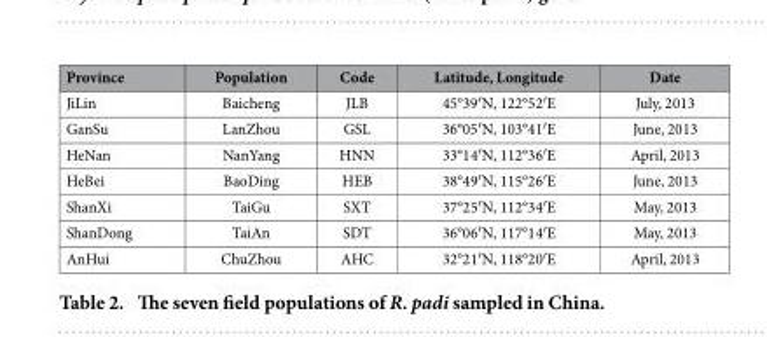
<table><thead><tr><td>Province</td><td>Population</td><td>Code</td><td>Latitude, Longitude</td><td>Date</td></tr></thead><tbody><tr><td>JiLin</td><td>Baicheng</td><td>JLB</td><td>45°39′N, 122°52′E</td><td>July, 2013</td></tr><tr><td>GanSu</td><td>LanZhou</td><td>GSL</td><td>36°05′N, 103°41′E</td><td>June, 2013</td></tr><tr><td>HeNan</td><td>NanYang</td><td>HNN</td><td>33°14′N, 112°36′E</td><td>April, 2013</td></tr><tr><td>HeBei</td><td>BaoDing</td><td>HEB</td><td>38°49′N, 115°26′E</td><td>June, 2013</td></tr><tr><td>ShanXi</td><td>TaiGu</td><td>SXT</td><td>37°25′N, 112°34′E</td><td>May, 2013</td></tr><tr><td>ShanDong</td><td>TaiAn</td><td>SDT</td><td>36°06′N, 117°14′E</td><td>May, 2013</td></tr><tr><td>AnHui</td><td>ChuZhou</td><td>AHC</td><td>32°21′N, 118°20′E</td><td>April, 2013</td></tr></tbody></table>